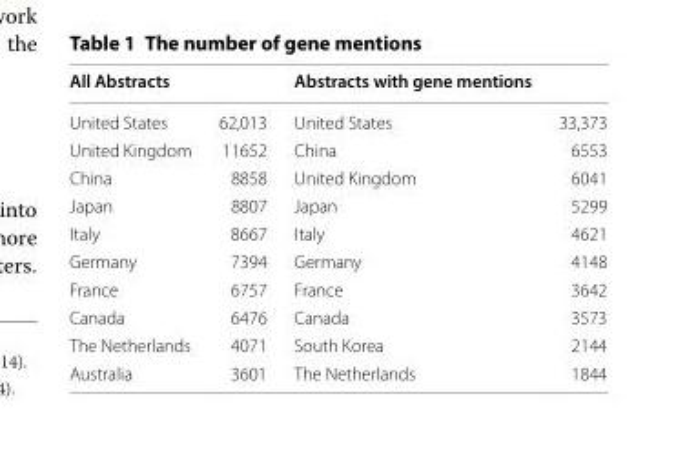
<table><thead><tr><td>All Abstracts</td><td></td><td>Abstracts with gene mentions</td><td></td></tr></thead><tbody><tr><td>United States</td><td>62,013</td><td>United States</td><td>33,373</td></tr><tr><td>United Kingdom</td><td>11652</td><td>China</td><td>6553</td></tr><tr><td>China</td><td>8858</td><td>United Kingdom</td><td>6041</td></tr><tr><td>Japan</td><td>8807</td><td>Japan</td><td>5299</td></tr><tr><td>Italy</td><td>8667</td><td>Italy</td><td>4621</td></tr><tr><td>Germany</td><td>7394</td><td>Germany</td><td>4148</td></tr><tr><td>France</td><td>6757</td><td>France</td><td>3642</td></tr><tr><td>Canada</td><td>6476</td><td>Canada</td><td>3573</td></tr><tr><td>The Netherlands</td><td>4071</td><td>South Korea</td><td>2144</td></tr><tr><td>Australia</td><td>3601</td><td>The Netherlands</td><td>1844</td></tr></tbody></table>